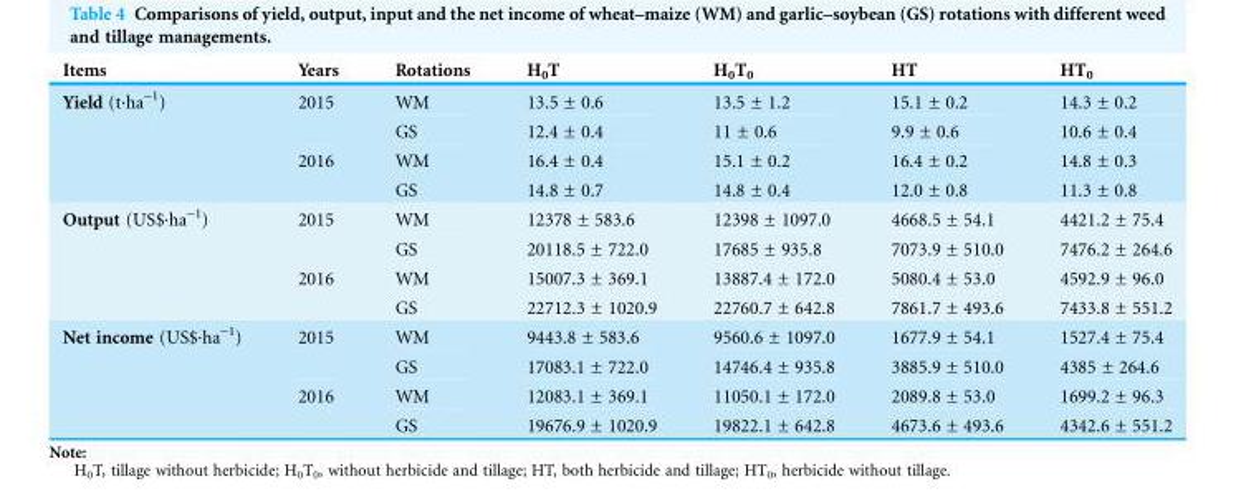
<table><thead><tr><td>Items</td><td>Years</td><td>Rotations</td><td>H<sub>0</sub>T</td><td>H<sub>0</sub>T<sub>0</sub></td><td>HT</td><td>HT<sub>0</sub></td></tr></thead><tbody><tr><td rowspan="4">Yield (t·ha<sup>-1</sup>)</td><td rowspan="2">2015</td><td>WM</td><td>13.5 ± 0.6</td><td>13.5 ± 1.2</td><td>15.1 ± 0.2</td><td>14.3 ± 0.2</td></tr><tr><td>GS</td><td>12.4 ± 0.4</td><td>11 ± 0.6</td><td>9.9 ± 0.6</td><td>10.6 ± 0.4</td></tr><tr><td rowspan="2">2016</td><td>WM</td><td>16.4 ± 0.4</td><td>15.1 ± 0.2</td><td>16.4 ± 0.2</td><td>14.8 ± 0.3</td></tr><tr><td>GS</td><td>14.8 ± 0.7</td><td>14.8 ± 0.4</td><td>12.0 ± 0.8</td><td>11.3 ± 0.8</td></tr><tr><td rowspan="4">Output (US$·ha<sup>-1</sup>)</td><td rowspan="2">2015</td><td>WM</td><td>12378 ± 583.6</td><td>12398 ± 1097.0</td><td>4668.5 ± 54.1</td><td>4421.2 ± 75.4</td></tr><tr><td>GS</td><td>20118.5 ± 722.0</td><td>17685 ± 935.8</td><td>7073.9 ± 510.0</td><td>7476.2 ± 264.6</td></tr><tr><td rowspan="2">2016</td><td>WM</td><td>15007.3 ± 369.1</td><td>13887.4 ± 172.0</td><td>5080.4 ± 53.0</td><td>4592.9 ± 96.0</td></tr><tr><td>GS</td><td>22712.3 ± 1020.9</td><td>22760.7 ± 642.8</td><td>7861.7 ± 493.6</td><td>7433.8 ± 551.2</td></tr><tr><td rowspan="4">Net income (US$·ha<sup>-1</sup>)</td><td rowspan="2">2015</td><td>WM</td><td>9443.8 ± 583.6</td><td>9560.6 ± 1097.0</td><td>1677.9 ± 54.1</td><td>1527.4 ± 75.4</td></tr><tr><td>GS</td><td>17083.1 ± 722.0</td><td>14746.4 ± 935.8</td><td>3885.9 ± 510.0</td><td>4385 ± 264.6</td></tr><tr><td rowspan="2">2016</td><td>WM</td><td>12083.1 ± 369.1</td><td>11050.1 ± 172.0</td><td>2089.8 ± 53.0</td><td>1699.2 ± 96.3</td></tr><tr><td>GS</td><td>19676.9 ± 1020.9</td><td>19822.1 ± 642.8</td><td>4673.6 ± 493.6</td><td>4342.6 ± 551.2</td></tr></tbody></table>